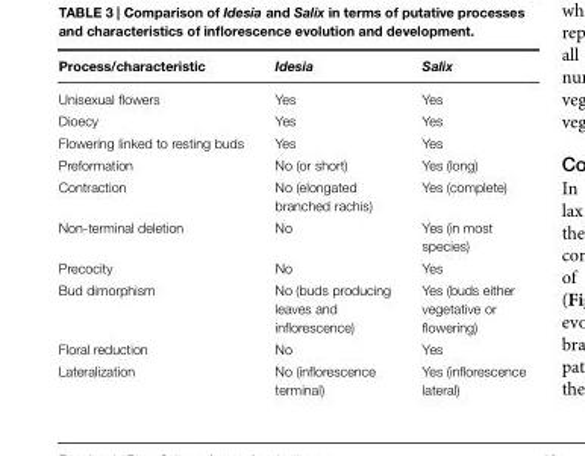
<table><thead><tr><td>Process/characteristic</td><td>Idesia</td><td>Salix</td></tr></thead><tbody><tr><td>Unisexual flowers</td><td>Yes</td><td>Yes</td></tr><tr><td>Dioecy</td><td>Yes</td><td>Yes</td></tr><tr><td>Flowering linked to resting buds</td><td>Yes</td><td>Yes</td></tr><tr><td>Preformation</td><td>No (or short)</td><td>Yes (long)</td></tr><tr><td>Contraction</td><td>No (elongated branched rachis)</td><td>Yes (complete)</td></tr><tr><td>Non-terminal deletion</td><td>No</td><td>Yes (in most species)</td></tr><tr><td>Precocity</td><td>No</td><td>Yes</td></tr><tr><td>Bud dimorphism</td><td>No (buds producing leaves and inflorescence)</td><td>Yes (buds either vegetative or flowering)</td></tr><tr><td>Floral reduction</td><td>No</td><td>Yes</td></tr><tr><td>Lateralization</td><td>No (inflorescence terminal)</td><td>Yes (inflorescence lateral)</td></tr></tbody></table>